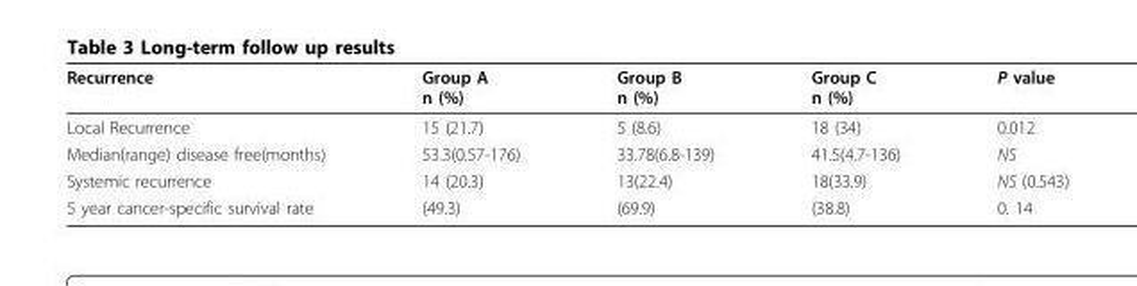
<table><thead><tr><td>Recurrence</td><td>Group A n (%)</td><td>Group B n (%)</td><td>Group C n (%)</td><td>P value</td></tr></thead><tbody><tr><td>Local Recurrence</td><td>15 (21.7)</td><td>5 (8.6)</td><td>18 (34)</td><td>0.012</td></tr><tr><td>Median(range) disease free(months)</td><td>53.3(0.57-176)</td><td>33.78(6.8-139)</td><td>41.5(4.7-136)</td><td>NS</td></tr><tr><td>Systemic recurrence</td><td>14 (20.3)</td><td>13(22.4)</td><td>18(33.9)</td><td>NS (0.543)</td></tr><tr><td>5 year cancer-specific survival rate</td><td>(49.3)</td><td>(69.9)</td><td>(38.8)</td><td>0. 14</td></tr></tbody></table>